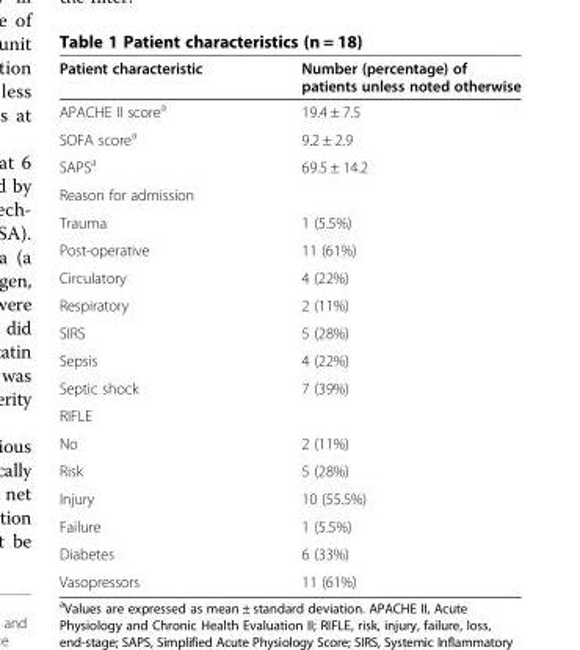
<table><thead><tr><td>Patient characteristic</td><td>Number (percentage) of patients unless noted otherwise</td></tr></thead><tbody><tr><td>APACHE II score<sup>a</sup></td><td>19.4 ± 7.5</td></tr><tr><td>SOFA score<sup>a</sup></td><td>9.2 ± 2.9</td></tr><tr><td>SAPS<sup>a</sup></td><td>69.5 ± 14.2</td></tr><tr><td colspan="2">Reason for admission</td></tr><tr><td>Trauma</td><td>1 (5.5%)</td></tr><tr><td>Post-operative</td><td>11 (61%)</td></tr><tr><td>Circulatory</td><td>4 (22%)</td></tr><tr><td>Respiratory</td><td>2 (11%)</td></tr><tr><td>SIRS</td><td>5 (28%)</td></tr><tr><td>Sepsis</td><td>4 (22%)</td></tr><tr><td>Septic shock</td><td>7 (39%)</td></tr><tr><td colspan="2">RIFLE</td></tr><tr><td>No</td><td>2 (11%)</td></tr><tr><td>Risk</td><td>5 (28%)</td></tr><tr><td>Injury</td><td>10 (55.5%)</td></tr><tr><td>Failure</td><td>1 (5.5%)</td></tr><tr><td>Diabetes</td><td>6 (33%)</td></tr><tr><td>Vasopressors</td><td>11 (61%)</td></tr></tbody></table>